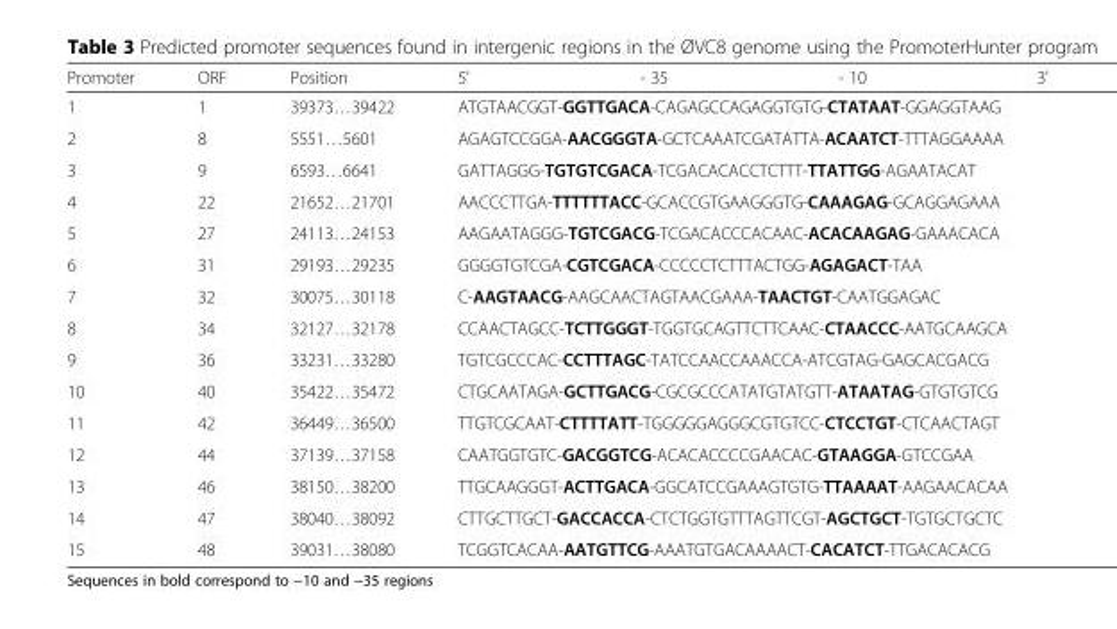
<table><thead><tr><td>Promoter</td><td>ORF</td><td>Position</td><td>5&#x27;</td><td>- 35</td><td>- 10</td><td>3&#x27;</td></tr></thead><tbody><tr><td>1</td><td>1</td><td>39373…39422</td><td colspan="4">ATGTAACGGT-GGTTGACA-CAGAGCCAGAGGTGTG-CTATAAT-GGAGGTAAG</td></tr><tr><td>2</td><td>8</td><td>5551…5601</td><td colspan="4">AGAGTCCGGA-AACGGGTA-GCTCAAATCGATATTA-ACAATCT-TTTAGGAAAA</td></tr><tr><td>3</td><td>9</td><td>6593…6641</td><td colspan="4">GATTAGGG-TGTGTCGACA-TCGACACACCTCTTT-TTATTGG-AGAATACAT</td></tr><tr><td>4</td><td>22</td><td>21652…21701</td><td colspan="4">AACCCTTGA-TTTTTTACC-GCACCGTGAAGGGTG-CAAAGAG-GCAGGAGAAA</td></tr><tr><td>5</td><td>27</td><td>24113…24153</td><td colspan="4">AAGAATAGGG-TGTCGACG-TCGACACCCACAAC-ACACAAGAG-GAAACACA</td></tr><tr><td>6</td><td>31</td><td>29193…29235</td><td colspan="4">GGGGTGTCGA-CGTCGACA-CCCCCTCTTTACTGG-AGAGACT-TAA</td></tr><tr><td>7</td><td>32</td><td>30075…30118</td><td colspan="4">C-AAGTAACG-AAGCAACTAGTAACGAAA-TAACTGT-CAATGGAGAC</td></tr><tr><td>8</td><td>34</td><td>32127…32178</td><td colspan="4">CCAACTAGCC-TCTTGGGT-TGGTGCAGTTCTTCAAC-CTAACCC-AATGCAAGCA</td></tr><tr><td>9</td><td>36</td><td>33231…33280</td><td colspan="4">TGTCGCCCAC-CCTTTAGC-TATCCAACCAAACCA-ATCGTAG-GAGCACGACG</td></tr><tr><td>10</td><td>40</td><td>35422…35472</td><td colspan="4">CTGCAATAGA-GCTTGACG-CGCGCCCATATGTATGTT-ATAATAG-GTGTGTCG</td></tr><tr><td>11</td><td>42</td><td>36449…36500</td><td colspan="4">TTGTCGCAAT-CTTTTATT-TGGGGGAGGGCGTGTCC-CTCCTGT-CTCAACTAGT</td></tr><tr><td>12</td><td>44</td><td>37139…37158</td><td colspan="4">CAATGGTGTC-GACGGTCG-ACACACCCCGAACAC-GTAAGGA-GTCCGAA</td></tr><tr><td>13</td><td>46</td><td>38150…38200</td><td colspan="4">TTGCAAGGGT-ACTTGACA-GGCATCCGAAAGTGTG-TTAAAAT-AAGAACACAA</td></tr><tr><td>14</td><td>47</td><td>38040…38092</td><td colspan="4">CTTGCTTGCT-GACCACCA-CTCTGGTGTTTAGTTCGT-AGCTGCT-TGTGCTGCTC</td></tr><tr><td>15</td><td>48</td><td>39031…38080</td><td colspan="4">TCGGTCACAA-AATGTTCG-AAATGTGACAAAACT-CACATCT-TTGACACACG</td></tr></tbody></table>